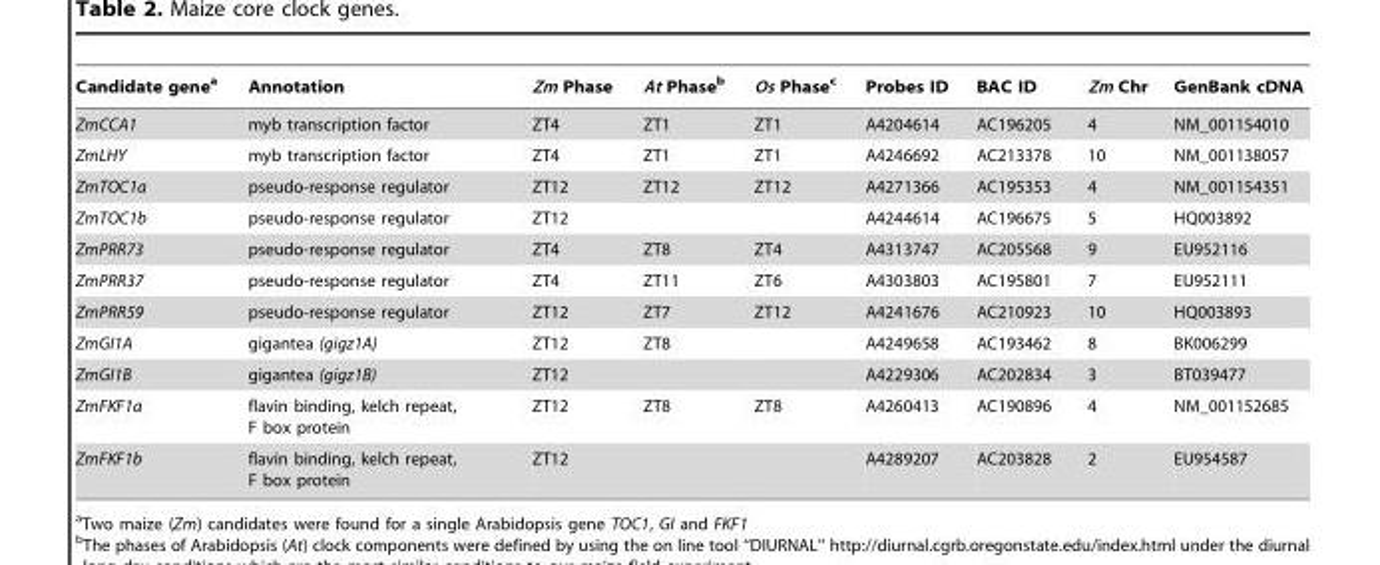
<table><thead><tr><td>Candidate gene<sup>a</sup></td><td>Annotation</td><td>Zm Phase</td><td>At Phase<sup>b</sup></td><td>Os Phase<sup>c</sup></td><td>Probes ID</td><td>BAC ID</td><td>Zm Chr</td><td>GenBank cDNA</td></tr></thead><tbody><tr><td>ZmCCA1</td><td>myb transcription factor</td><td>ZT4</td><td>ZT1</td><td>ZT1</td><td>A4204614</td><td>AC196205</td><td>4</td><td>NM_001154010</td></tr><tr><td>ZmLHY</td><td>myb transcription factor</td><td>ZT4</td><td>ZT1</td><td>ZT1</td><td>A4246692</td><td>AC213378</td><td>10</td><td>NM_001138057</td></tr><tr><td>ZmTOC1a</td><td>pseudo-response regulator</td><td>ZT12</td><td>ZT12</td><td>ZT12</td><td>A4271366</td><td>AC195353</td><td>4</td><td>NM_001154351</td></tr><tr><td>ZmTOC1b</td><td>pseudo-response regulator</td><td>ZT12</td><td></td><td></td><td>A4244614</td><td>AC196675</td><td>5</td><td>HQ003892</td></tr><tr><td>ZmPRR73</td><td>pseudo-response regulator</td><td>ZT4</td><td>ZT8</td><td>ZT4</td><td>A4313747</td><td>AC205568</td><td>9</td><td>EU952116</td></tr><tr><td>ZmPRR37</td><td>pseudo-response regulator</td><td>ZT4</td><td>ZT11</td><td>ZT6</td><td>A4303803</td><td>AC195801</td><td>7</td><td>EU952111</td></tr><tr><td>ZmPRR59</td><td>pseudo-response regulator</td><td>ZT12</td><td>ZT7</td><td>ZT12</td><td>A4241676</td><td>AC210923</td><td>10</td><td>HQ003893</td></tr><tr><td>ZmGI1A</td><td>gigantea (gigz1A)</td><td>ZT12</td><td>ZT8</td><td></td><td>A4249658</td><td>AC193462</td><td>8</td><td>BK006299</td></tr><tr><td>ZmGI1B</td><td>gigantea (gigz1B)</td><td>ZT12</td><td></td><td></td><td>A4229306</td><td>AC202834</td><td>3</td><td>BT039477</td></tr><tr><td>ZmFKF1a</td><td>flavin binding, kelch repeat, F box protein</td><td>ZT12</td><td>ZT8</td><td>ZT8</td><td>A4260413</td><td>AC190896</td><td>4</td><td>NM_001152685</td></tr><tr><td>ZmFKF1b</td><td>flavin binding, kelch repeat, F box protein</td><td>ZT12</td><td></td><td></td><td>A4289207</td><td>AC203828</td><td>2</td><td>EU954587</td></tr></tbody></table>